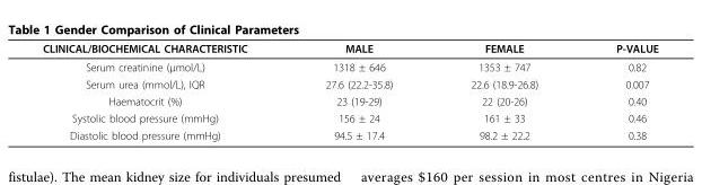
<table><thead><tr><td>CLINICAL/BIOCHEMICAL CHARACTERISTIC</td><td>MALE</td><td>FEMALE</td><td>P-VALUE</td></tr></thead><tbody><tr><td>Serum creatinine (μmol/L)</td><td>1318 ± 646</td><td>1353 ± 747</td><td>0.82</td></tr><tr><td>Serum urea (mmol/L), IQR</td><td>27.6 (22.2-35.8)</td><td>22.6 (18.9-26.8)</td><td>0.007</td></tr><tr><td>Haematocrit (%)</td><td>23 (19-29)</td><td>22 (20-26)</td><td>0.40</td></tr><tr><td>Systolic blood pressure (mmHg)</td><td>156 ± 24</td><td>161 ± 33</td><td>0.46</td></tr><tr><td>Diastolic blood pressure (mmHg)</td><td>94.5 ± 17.4</td><td>98.2 ± 22.2</td><td>0.38</td></tr></tbody></table>